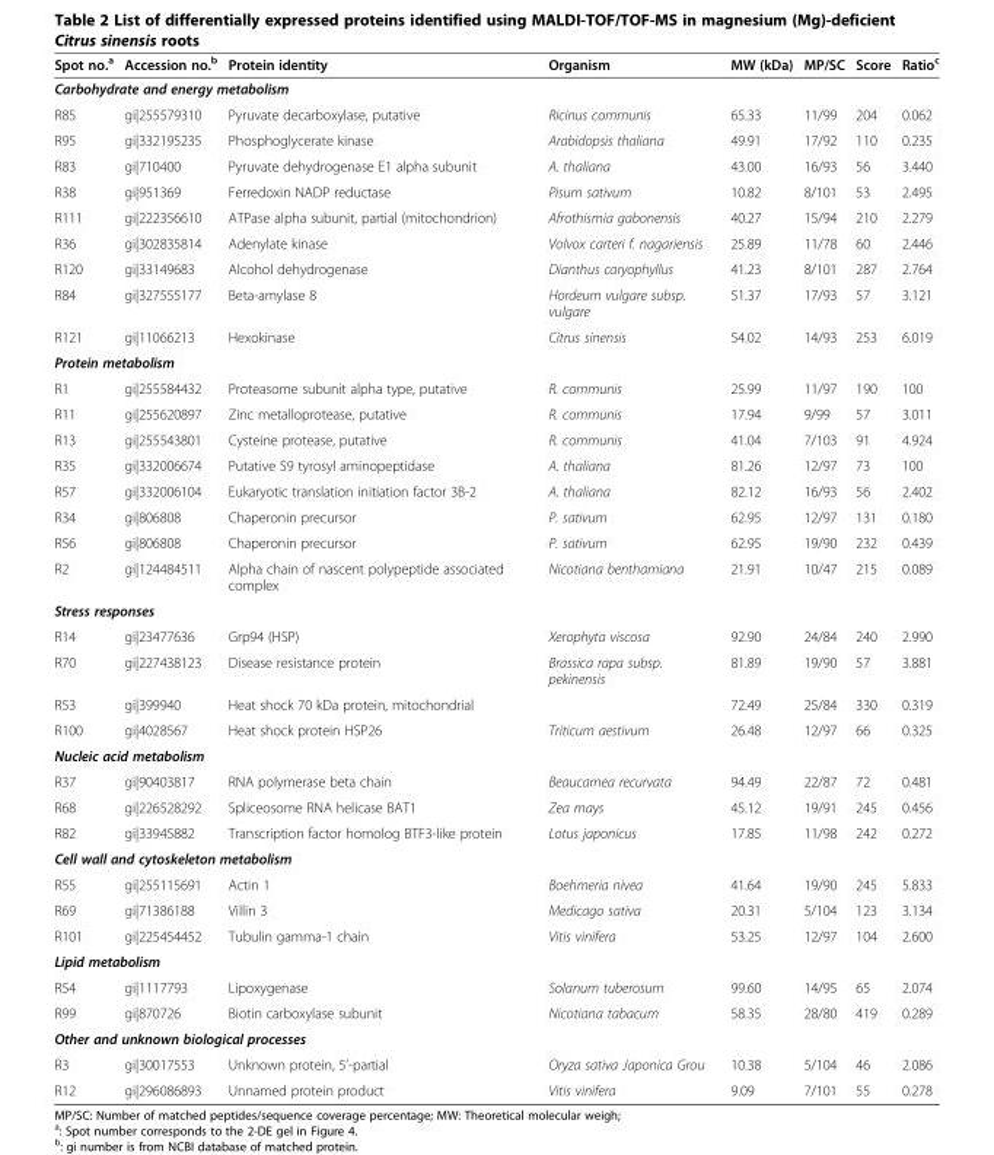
<table><thead><tr><td>Spot no.<sup>a</sup></td><td>Accession no.<sup>b</sup></td><td>Protein identity</td><td>Organism</td><td>MW (kDa)</td><td>MP/SC</td><td>Score</td><td>Ratio<sup>c</sup></td></tr></thead><tbody><tr><td colspan="8">Carbohydrate and energy metabolism</td></tr><tr><td>R85</td><td>gi|255579310</td><td>Pyruvate decarboxylase, putative</td><td>Ricinus communis</td><td>65.33</td><td>11/99</td><td>204</td><td>0.062</td></tr><tr><td>R95</td><td>gi|332195235</td><td>Phosphoglycerate kinase</td><td>Arabidopsis thaliana</td><td>49.91</td><td>17/92</td><td>110</td><td>0.235</td></tr><tr><td>R83</td><td>gi|710400</td><td>Pyruvate dehydrogenase E1 alpha subunit</td><td>A. thaliana</td><td>43.00</td><td>16/93</td><td>56</td><td>3.440</td></tr><tr><td>R38</td><td>gi|951369</td><td>Ferredoxin NADP reductase</td><td>Pisum sativum</td><td>10.82</td><td>8/101</td><td>53</td><td>2.495</td></tr><tr><td>R111</td><td>gi|222356610</td><td>ATPase alpha subunit, partial (mitochondrion)</td><td>Afrothismia gabonensis</td><td>40.27</td><td>15/94</td><td>210</td><td>2.279</td></tr><tr><td>R36</td><td>gi|302835814</td><td>Adenylate kinase</td><td>Volvox carteri f. nagariensis</td><td>25.89</td><td>11/78</td><td>60</td><td>2.446</td></tr><tr><td>R120</td><td>gi|33149683</td><td>Alcohol dehydrogenase</td><td>Dianthus caryophyllus</td><td>41.23</td><td>8/101</td><td>287</td><td>2.764</td></tr><tr><td>R84</td><td>gi|327555177</td><td>Beta-amylase 8</td><td>Hordeum vulgare subsp. vulgare</td><td>51.37</td><td>17/93</td><td>57</td><td>3.121</td></tr><tr><td>R121</td><td>gi|11066213</td><td>Hexokinase</td><td>Citrus sinensis</td><td>54.02</td><td>14/93</td><td>253</td><td>6.019</td></tr><tr><td colspan="8">Protein metabolism</td></tr><tr><td>R1</td><td>gi|255584432</td><td>Proteasome subunit alpha type, putative</td><td>R. communis</td><td>25.99</td><td>11/97</td><td>190</td><td>100</td></tr><tr><td>R11</td><td>gi|255620897</td><td>Zinc metalloprotease, putative</td><td>R. communis</td><td>17.94</td><td>9/99</td><td>57</td><td>3.011</td></tr><tr><td>R13</td><td>gi|255543801</td><td>Cysteine protease, putative</td><td>R. communis</td><td>41.04</td><td>7/103</td><td>91</td><td>4.924</td></tr><tr><td>R35</td><td>gi|332006674</td><td>Putative S9 tyrosyl aminopeptidase</td><td>A. thaliana</td><td>81.26</td><td>12/97</td><td>73</td><td>100</td></tr><tr><td>R57</td><td>gi|332006104</td><td>Eukaryotic translation initiation factor 3B-2</td><td>A. thaliana</td><td>82.12</td><td>16/93</td><td>56</td><td>2.402</td></tr><tr><td>R34</td><td>gi|806808</td><td>Chaperonin precursor</td><td>P. sativum</td><td>62.95</td><td>12/97</td><td>131</td><td>0.180</td></tr><tr><td>R56</td><td>gi|806808</td><td>Chaperonin precursor</td><td>P. sativum</td><td>62.95</td><td>19/90</td><td>232</td><td>0.439</td></tr><tr><td>R2</td><td>gi|124484511</td><td>Alpha chain of nascent polypeptide associated complex</td><td>Nicotiana benthamiana</td><td>21.91</td><td>10/47</td><td>215</td><td>0.089</td></tr><tr><td colspan="8">Stress responses</td></tr><tr><td>R14</td><td>gi|23477636</td><td>Grp94 (HSP)</td><td>Xerophyta viscosa</td><td>92.90</td><td>24/84</td><td>240</td><td>2.990</td></tr><tr><td>R70</td><td>gi|227438123</td><td>Disease resistance protein</td><td>Brassica rapa subsp. pekinensis</td><td>81.89</td><td>19/90</td><td>57</td><td>3.881</td></tr><tr><td>R53</td><td>gi|399940</td><td>Heat shock 70 kDa protein, mitochondrial</td><td></td><td>72.49</td><td>25/84</td><td>330</td><td>0.319</td></tr><tr><td>R100</td><td>gi|4028567</td><td>Heat shock protein HSP26</td><td>Triticum aestivum</td><td>26.48</td><td>12/97</td><td>66</td><td>0.325</td></tr><tr><td colspan="8">Nucleic acid metabolism</td></tr><tr><td>R37</td><td>gi|90403817</td><td>RNA polymerase beta chain</td><td>Beaucarnea recurvata</td><td>94.49</td><td>22/87</td><td>72</td><td>0.481</td></tr><tr><td>R68</td><td>gi|226528292</td><td>Spliceosome RNA helicase BAT1</td><td>Zea mays</td><td>45.12</td><td>19/91</td><td>245</td><td>0.456</td></tr><tr><td>R82</td><td>gi|33945882</td><td>Transcription factor homolog BTF3-like protein</td><td>Lotus japonicus</td><td>17.85</td><td>11/98</td><td>242</td><td>0.272</td></tr><tr><td colspan="8">Cell wall and cytoskeleton metabolism</td></tr><tr><td>R55</td><td>gi|255115691</td><td>Actin 1</td><td>Boehmeria nivea</td><td>41.64</td><td>19/90</td><td>245</td><td>5.833</td></tr><tr><td>R69</td><td>gi|71386188</td><td>Villin 3</td><td>Medicago sativa</td><td>20.31</td><td>5/104</td><td>123</td><td>3.134</td></tr><tr><td>R101</td><td>gi|225454452</td><td>Tubulin gamma-1 chain</td><td>Vitis vinifera</td><td>53.25</td><td>12/97</td><td>104</td><td>2.600</td></tr><tr><td colspan="8">Lipid metabolism</td></tr><tr><td>R54</td><td>gi|1117793</td><td>Lipoxygenase</td><td>Solanum tuberosum</td><td>99.60</td><td>14/95</td><td>65</td><td>2.074</td></tr><tr><td>R99</td><td>gi|870726</td><td>Biotin carboxylase subunit</td><td>Nicotiana tabacum</td><td>58.35</td><td>28/80</td><td>419</td><td>0.289</td></tr><tr><td colspan="8">Other and unknown biological processes</td></tr><tr><td>R3</td><td>gi|30017553</td><td>Unknown protein, 5’-partial</td><td>Oryza sativa Japonica Grou</td><td>10.38</td><td>5/104</td><td>46</td><td>2.086</td></tr><tr><td>R12</td><td>gi|296086893</td><td>Unnamed protein product</td><td>Vitis vinifera</td><td>9.09</td><td>7/101</td><td>55</td><td>0.278</td></tr></tbody></table>